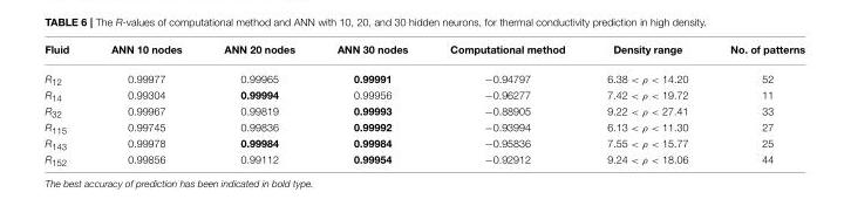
<table><thead><tr><td>Fluid</td><td>ANN 10 nodes</td><td>ANN 20 nodes</td><td>ANN 30 nodes</td><td>Computational method</td><td>Density range</td><td>No. of patterns</td></tr></thead><tbody><tr><td>R<sub>12</sub></td><td>0.99977</td><td>0.99965</td><td>0.99991</td><td>−0.94797</td><td>6.38 &lt; ρ &lt; 14.20</td><td>52</td></tr><tr><td>R<sub>14</sub></td><td>0.99304</td><td>0.99994</td><td>0.99956</td><td>−0.96277</td><td>7.42 &lt; ρ &lt; 19.72</td><td>11</td></tr><tr><td>R<sub>32</sub></td><td>0.99967</td><td>0.99819</td><td>0.99993</td><td>−0.88905</td><td>9.22 &lt; ρ &lt; 27.41</td><td>33</td></tr><tr><td>R<sub>115</sub></td><td>0.99745</td><td>0.99836</td><td>0.99992</td><td>−0.93994</td><td>6.13 &lt; ρ &lt; 11.30</td><td>27</td></tr><tr><td>R<sub>143</sub></td><td>0.99978</td><td>0.99984</td><td>0.99984</td><td>−0.95836</td><td>7.55 &lt; ρ &lt; 15.77</td><td>25</td></tr><tr><td>R<sub>152</sub></td><td>0.99856</td><td>0.99112</td><td>0.99954</td><td>−0.92912</td><td>9.24 &lt; ρ &lt; 18.06</td><td>44</td></tr></tbody></table>